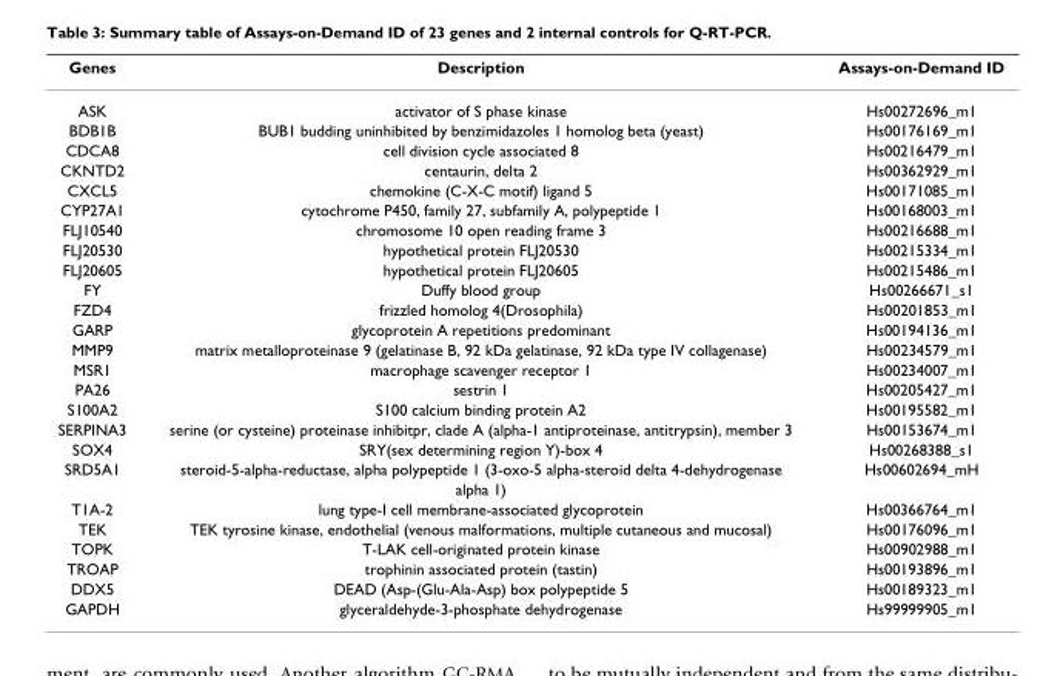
<table><thead><tr><td>Genes</td><td>Description</td><td>Assays-on-Demand ID</td></tr></thead><tbody><tr><td>ASK</td><td>activator of S phase kinase</td><td>Hs00272696_m1</td></tr><tr><td>BDB1B</td><td>BUB1 budding uninhibited by benzimidazoles 1 homolog beta (yeast)</td><td>Hs00176169_m1</td></tr><tr><td>CDCA8</td><td>cell division cycle associated 8</td><td>Hs00216479_m1</td></tr><tr><td>CKNTD2</td><td>centaurin, delta 2</td><td>Hs00362929_m1</td></tr><tr><td>CXCL5</td><td>chemokine (C-X-C motif) ligand 5</td><td>Hs00171085_m1</td></tr><tr><td>CYP27A1</td><td>cytochrome P450, family 27, subfamily A, polypeptide 1</td><td>Hs00168003_m1</td></tr><tr><td>FLJ10540</td><td>chromosome 10 open reading frame 3</td><td>Hs00216688_m1</td></tr><tr><td>FLJ20530</td><td>hypothetical protein FLJ20530</td><td>Hs00215334_m1</td></tr><tr><td>FLJ20605</td><td>hypothetical protein FLJ20605</td><td>Hs00215486_m1</td></tr><tr><td>FY</td><td>Duffy blood group</td><td>Hs00266671_s1</td></tr><tr><td>FZD4</td><td>frizzled homolog 4(Drosophila)</td><td>Hs00201853_m1</td></tr><tr><td>GARP</td><td>glycoprotein A repetitions predominant</td><td>Hs00194136_m1</td></tr><tr><td>MMP9</td><td>matrix metalloproteinase 9 (gelatinase B, 92 kDa gelatinase, 92 kDa type IV collagenase)</td><td>Hs00234579_m1</td></tr><tr><td>MSR1</td><td>macrophage scavenger receptor 1</td><td>Hs00234007_m1</td></tr><tr><td>PA26</td><td>sestrin 1</td><td>Hs00205427_m1</td></tr><tr><td>S100A2</td><td>S100 calcium binding protein A2</td><td>Hs00195582_m1</td></tr><tr><td>SERPINA3</td><td>serine (or cysteine) proteinase inhibitpr, clade A (alpha-1 antiproteinase, antitrypsin), member 3</td><td>Hs00153674_m1</td></tr><tr><td>SOX4</td><td>SRY(sex determining region Y)-box 4</td><td>Hs00268388_s1</td></tr><tr><td rowspan="2">SRD5A1</td><td>steroid-5-alpha-reductase, alpha polypeptide 1 (3-oxo-5 alpha-steroid delta 4-dehydrogenase</td><td>Hs00602694_mH</td></tr><tr><td>alpha 1)</td><td></td></tr><tr><td>T1A-2</td><td>lung type-I cell membrane-associated glycoprotein</td><td>Hs00366764_m1</td></tr><tr><td>TEK</td><td>TEK tyrosine kinase, endothelial (venous malformations, multiple cutaneous and mucosal)</td><td>Hs00176096_m1</td></tr><tr><td>TOPK</td><td>T-LAK cell-originated protein kinase</td><td>Hs00902988_m1</td></tr><tr><td>TROAP</td><td>trophinin associated protein (tastin)</td><td>Hs00193896_m1</td></tr><tr><td>DDX5</td><td>DEAD (Asp-(Glu-Ala-Asp) box polypeptide 5</td><td>Hs00189323_m1</td></tr><tr><td>GAPDH</td><td>glyceraldehyde-3-phosphate dehydrogenase</td><td>Hs99999905_m1</td></tr></tbody></table>